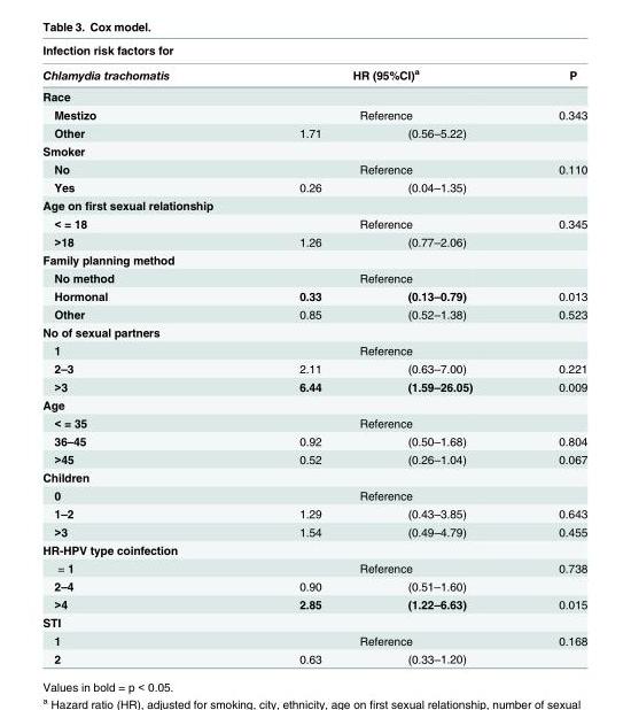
<table><thead><tr><td colspan="4">Infection risk factors for</td></tr><tr><td rowspan="4">Chlamydia trachomatis Race Mestizo Other</td><td rowspan="3" colspan="2">HR (95%CI)<sup>a</sup> Reference</td><td rowspan="4">P 0.343</td></tr><tr></tr><tr></tr><tr><td>1.71</td><td>(0.56–5.22)</td></tr></thead><tbody><tr><td colspan="4">Smoker</td></tr><tr><td>No</td><td colspan="2">Reference</td><td>0.110</td></tr><tr><td>Yes</td><td>0.26</td><td>(0.04–1.35)</td><td></td></tr><tr><td colspan="4">Age on first sexual relationship</td></tr><tr><td>&lt; = 18</td><td colspan="2">Reference</td><td>0.345</td></tr><tr><td>&gt;18</td><td>1.26</td><td>(0.77–2.06)</td><td></td></tr><tr><td colspan="4">Family planning method</td></tr><tr><td>No method</td><td colspan="2">Reference</td><td></td></tr><tr><td>Hormonal</td><td>0.33</td><td>(0.13–0.79)</td><td>0.013</td></tr><tr><td>Other</td><td>0.85</td><td>(0.52–1.38)</td><td>0.523</td></tr><tr><td colspan="4">No of sexual partners</td></tr><tr><td>1</td><td colspan="2">Reference</td><td></td></tr><tr><td>2–3</td><td>2.11</td><td>(0.63–7.00)</td><td>0.221</td></tr><tr><td>&gt;3</td><td>6.44</td><td>(1.59–26.05)</td><td>0.009</td></tr><tr><td colspan="4">Age</td></tr><tr><td>&lt; = 35</td><td colspan="2">Reference</td><td></td></tr><tr><td>36–45</td><td>0.92</td><td>(0.50–1.68)</td><td>0.804</td></tr><tr><td>&gt;45</td><td>0.52</td><td>(0.26–1.04)</td><td>0.067</td></tr><tr><td colspan="4">Children</td></tr><tr><td>0</td><td colspan="2">Reference</td><td></td></tr><tr><td>1–2</td><td>1.29</td><td>(0.43–3.85)</td><td>0.643</td></tr><tr><td>&gt;3</td><td>1.54</td><td>(0.49–4.79)</td><td>0.455</td></tr><tr><td colspan="4">HR-HPV type coinfection</td></tr><tr><td>= 1</td><td colspan="2">Reference</td><td>0.738</td></tr><tr><td>2–4</td><td>0.90</td><td>(0.51–1.60)</td><td></td></tr><tr><td>&gt;4</td><td>2.85</td><td>(1.22–6.63)</td><td>0.015</td></tr><tr><td colspan="4">STI</td></tr><tr><td>1</td><td colspan="2">Reference</td><td>0.168</td></tr><tr><td>2</td><td>0.63</td><td>(0.33–1.20)</td><td></td></tr></tbody></table>